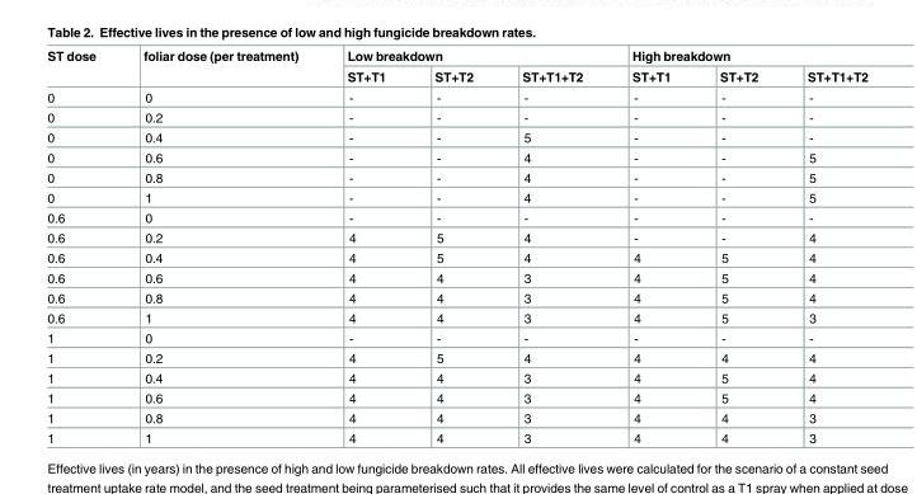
<table><thead><tr><td rowspan="2">ST dose</td><td rowspan="2">foliar dose (per treatment)</td><td colspan="3">Low breakdown</td><td colspan="3">High breakdown</td></tr><tr><td>ST+T1</td><td>ST+T2</td><td>ST+T1+T2</td><td>ST+T1</td><td>ST+T2</td><td>ST+T1+T2</td></tr></thead><tbody><tr><td>0</td><td>0</td><td>-</td><td>-</td><td>-</td><td>-</td><td>-</td><td>-</td></tr><tr><td>0</td><td>0.2</td><td>-</td><td>-</td><td>-</td><td>-</td><td>-</td><td>-</td></tr><tr><td>0</td><td>0.4</td><td>-</td><td>-</td><td>5</td><td>-</td><td>-</td><td>-</td></tr><tr><td>0</td><td>0.6</td><td>-</td><td>-</td><td>4</td><td>-</td><td>-</td><td>5</td></tr><tr><td>0</td><td>0.8</td><td>-</td><td>-</td><td>4</td><td>-</td><td>-</td><td>5</td></tr><tr><td>0</td><td>1</td><td>-</td><td>-</td><td>4</td><td>-</td><td>-</td><td>5</td></tr><tr><td>0.6</td><td>0</td><td>-</td><td>-</td><td>-</td><td>-</td><td>-</td><td>-</td></tr><tr><td>0.6</td><td>0.2</td><td>4</td><td>5</td><td>4</td><td>-</td><td>-</td><td>4</td></tr><tr><td>0.6</td><td>0.4</td><td>4</td><td>5</td><td>4</td><td>4</td><td>5</td><td>4</td></tr><tr><td>0.6</td><td>0.6</td><td>4</td><td>4</td><td>3</td><td>4</td><td>5</td><td>4</td></tr><tr><td>0.6</td><td>0.8</td><td>4</td><td>4</td><td>3</td><td>4</td><td>5</td><td>4</td></tr><tr><td>0.6</td><td>1</td><td>4</td><td>4</td><td>3</td><td>4</td><td>5</td><td>3</td></tr><tr><td>1</td><td>0</td><td>-</td><td>-</td><td>-</td><td>-</td><td>-</td><td>-</td></tr><tr><td>1</td><td>0.2</td><td>4</td><td>5</td><td>4</td><td>4</td><td>4</td><td>4</td></tr><tr><td>1</td><td>0.4</td><td>4</td><td>4</td><td>3</td><td>4</td><td>5</td><td>4</td></tr><tr><td>1</td><td>0.6</td><td>4</td><td>4</td><td>3</td><td>4</td><td>5</td><td>4</td></tr><tr><td>1</td><td>0.8</td><td>4</td><td>4</td><td>3</td><td>4</td><td>4</td><td>3</td></tr><tr><td>1</td><td>1</td><td>4</td><td>4</td><td>3</td><td>4</td><td>4</td><td>3</td></tr></tbody></table>